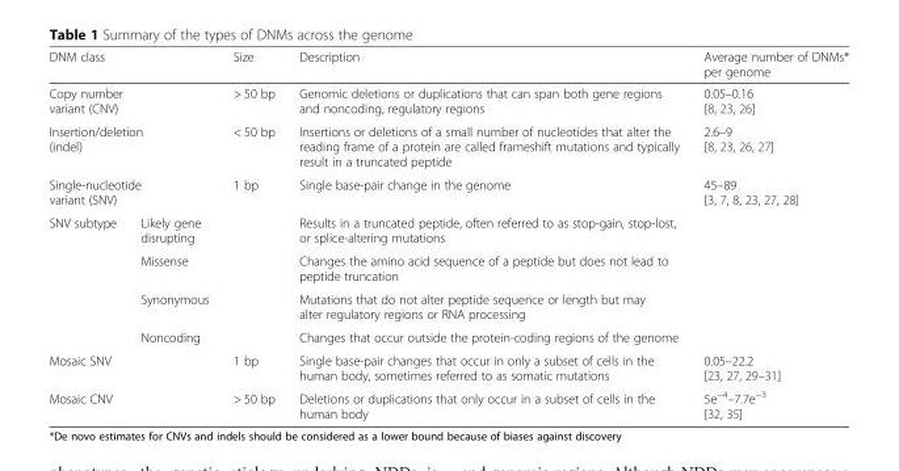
<table><thead><tr><td colspan="2">DNM class</td><td>Size</td><td>Description</td><td>Average number of DNMs* per genome</td></tr></thead><tbody><tr><td colspan="2">Copy number variant (CNV)</td><td>&gt; 50 bp</td><td>Genomic deletions or duplications that can span both gene regions and noncoding, regulatory regions</td><td>0.05–0.16 [8, 23, 26]</td></tr><tr><td colspan="2">Insertion/deletion (indel)</td><td>&lt; 50 bp</td><td>Insertions or deletions of a small number of nucleotides that alter the reading frame of a protein are called frameshift mutations and typically result in a truncated peptide</td><td>2.6–9 [8, 23, 26, 27]</td></tr><tr><td colspan="2">Single-nucleotide variant (SNV)</td><td rowspan="5">1 bp</td><td>Single base-pair change in the genome</td><td rowspan="5">45–89 [3, 7, 8, 23, 27, 28]</td></tr><tr><td rowspan="4">SNV subtype</td><td>Likely gene disrupting</td><td>Results in a truncated peptide, often referred to as stop-gain, stop-lost, or splice-altering mutations</td></tr><tr><td>Missense</td><td>Changes the amino acid sequence of a peptide but does not lead to peptide truncation</td></tr><tr><td>Synonymous</td><td>Mutations that do not alter peptide sequence or length but may alter regulatory regions or RNA processing</td></tr><tr><td>Noncoding</td><td>Changes that occur outside the protein-coding regions of the genome</td></tr><tr><td colspan="2">Mosaic SNV</td><td>1 bp</td><td>Single base-pair changes that occur in only a subset of cells in the human body, sometimes referred to as somatic mutations</td><td>0.05–22.2 [23, 27, 29–31]</td></tr><tr><td colspan="2">Mosaic CNV</td><td>&gt; 50 bp</td><td>Deletions or duplications that only occur in a subset of cells in the human body</td><td>5e<sup>−4</sup>–7.7e<sup>−3</sup> [32, 35]</td></tr></tbody></table>